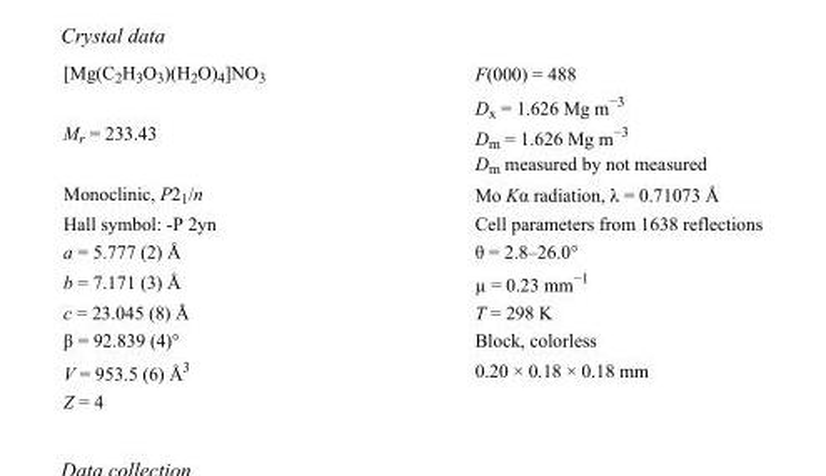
<table><tbody><tr><td>[Mg(C<sub>2</sub>H<sub>3</sub>O<sub>3</sub>)(H<sub>2</sub>O)<sub>4</sub>]NO<sub>3</sub></td><td>F(000) = 488</td></tr><tr><td>M<sub>r</sub> = 233.43</td><td>D<sub>x</sub> = 1.626 Mg m<sup>−3</sup> D<sub>m</sub> = 1.626 Mg m<sup>−3</sup> D<sub>m</sub> measured by not measured</td></tr><tr><td>Monoclinic, P2<sub>1</sub>/n</td><td>Mo Kα radiation, λ = 0.71073 Å</td></tr><tr><td>Hall symbol: -P 2yn</td><td>Cell parameters from 1638 reflections</td></tr><tr><td>a = 5.777 (2) Å</td><td>θ = 2.8–26.0°</td></tr><tr><td>b = 7.171 (3) Å</td><td>µ = 0.23 mm<sup>−1</sup></td></tr><tr><td>c = 23.045 (8) Å</td><td>T = 298 K</td></tr><tr><td>β = 92.839 (4)°</td><td>Block, colorless</td></tr><tr><td>V = 953.5 (6) Å<sup>3</sup></td><td>0.20 × 0.18 × 0.18 mm</td></tr><tr><td>Z = 4</td><td></td></tr></tbody></table>